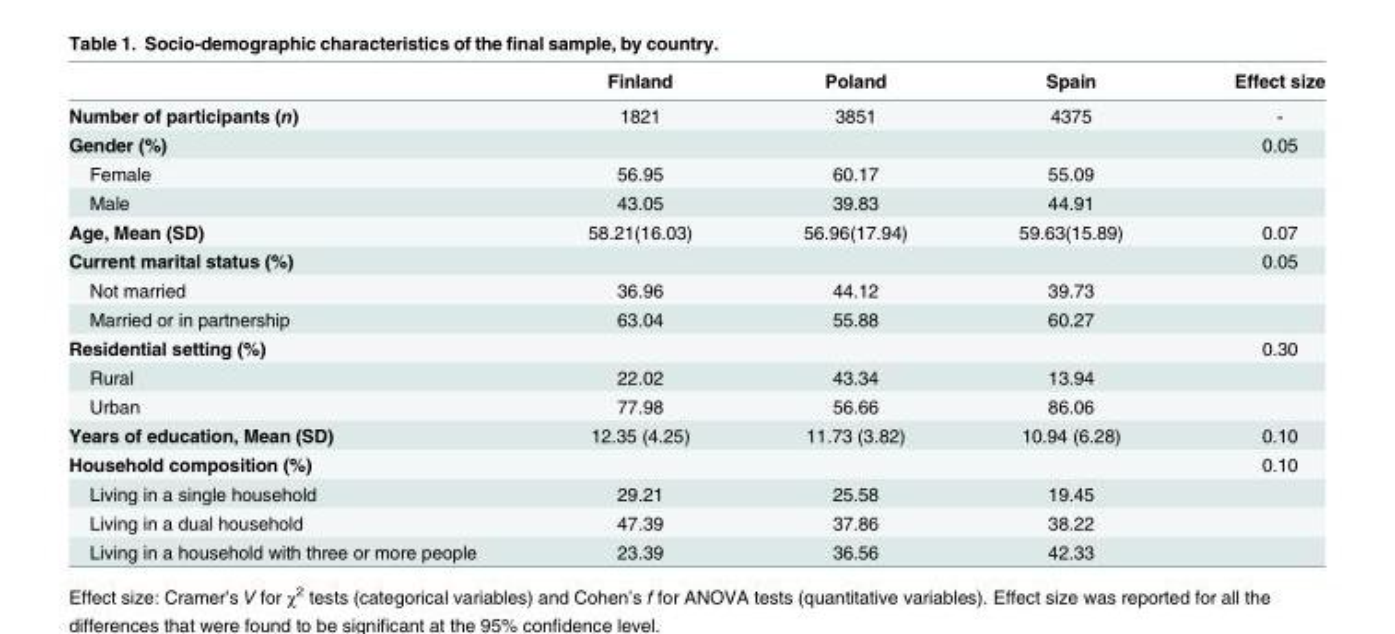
<table><thead><tr><td></td><td>Finland</td><td>Poland</td><td>Spain</td><td>Effect size</td></tr></thead><tbody><tr><td>Number of participants (n)</td><td>1821</td><td>3851</td><td>4375</td><td>-</td></tr><tr><td>Gender (%)</td><td></td><td></td><td></td><td>0.05</td></tr><tr><td>Female</td><td>56.95</td><td>60.17</td><td>55.09</td><td></td></tr><tr><td>Male</td><td>43.05</td><td>39.83</td><td>44.91</td><td></td></tr><tr><td>Age, Mean (SD)</td><td>58.21(16.03)</td><td>56.96(17.94)</td><td>59.63(15.89)</td><td>0.07</td></tr><tr><td>Current marital status (%)</td><td></td><td></td><td></td><td>0.05</td></tr><tr><td>Not married</td><td>36.96</td><td>44.12</td><td>39.73</td><td></td></tr><tr><td>Married or in partnership</td><td>63.04</td><td>55.88</td><td>60.27</td><td></td></tr><tr><td>Residential setting (%)</td><td></td><td></td><td></td><td>0.30</td></tr><tr><td>Rural</td><td>22.02</td><td>43.34</td><td>13.94</td><td></td></tr><tr><td>Urban</td><td>77.98</td><td>56.66</td><td>86.06</td><td></td></tr><tr><td>Years of education, Mean (SD)</td><td>12.35 (4.25)</td><td>11.73 (3.82)</td><td>10.94 (6.28)</td><td>0.10</td></tr><tr><td>Household composition (%)</td><td></td><td></td><td></td><td>0.10</td></tr><tr><td>Living in a single household</td><td>29.21</td><td>25.58</td><td>19.45</td><td></td></tr><tr><td>Living in a dual household</td><td>47.39</td><td>37.86</td><td>38.22</td><td></td></tr><tr><td>Living in a household with three or more people</td><td>23.39</td><td>36.56</td><td>42.33</td><td></td></tr></tbody></table>